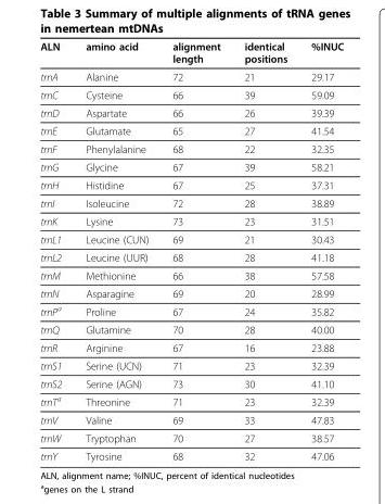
<table><thead><tr><td>ALN</td><td>amino acid</td><td>alignment length</td><td>identical positions</td><td>%INUC</td></tr></thead><tbody><tr><td>trnA</td><td>Alanine</td><td>72</td><td>21</td><td>29.17</td></tr><tr><td>trnC</td><td>Cysteine</td><td>66</td><td>39</td><td>59.09</td></tr><tr><td>trnD</td><td>Aspartate</td><td>66</td><td>26</td><td>39.39</td></tr><tr><td>trnE</td><td>Glutamate</td><td>65</td><td>27</td><td>41.54</td></tr><tr><td>trnF</td><td>Phenylalanine</td><td>68</td><td>22</td><td>32.35</td></tr><tr><td>trnG</td><td>Glycine</td><td>67</td><td>39</td><td>58.21</td></tr><tr><td>trnH</td><td>Histidine</td><td>67</td><td>25</td><td>37.31</td></tr><tr><td>trnI</td><td>Isoleucine</td><td>72</td><td>28</td><td>38.89</td></tr><tr><td>trnK</td><td>Lysine</td><td>73</td><td>23</td><td>31.51</td></tr><tr><td>trnL1</td><td>Leucine (CUN)</td><td>69</td><td>21</td><td>30.43</td></tr><tr><td>trnL2</td><td>Leucine (UUR)</td><td>68</td><td>28</td><td>41.18</td></tr><tr><td>trnM</td><td>Methionine</td><td>66</td><td>38</td><td>57.58</td></tr><tr><td>trnN</td><td>Asparagine</td><td>69</td><td>20</td><td>28.99</td></tr><tr><td>trnP<sup>a</sup></td><td>Proline</td><td>67</td><td>24</td><td>35.82</td></tr><tr><td>trnQ</td><td>Glutamine</td><td>70</td><td>28</td><td>40.00</td></tr><tr><td>trnR</td><td>Arginine</td><td>67</td><td>16</td><td>23.88</td></tr><tr><td>trnS1</td><td>Serine (UCN)</td><td>71</td><td>23</td><td>32.39</td></tr><tr><td>trnS2</td><td>Serine (AGN)</td><td>73</td><td>30</td><td>41.10</td></tr><tr><td>trnT<sup>a</sup></td><td>Threonine</td><td>71</td><td>23</td><td>32.39</td></tr><tr><td>trnV</td><td>Valine</td><td>69</td><td>33</td><td>47.83</td></tr><tr><td>trnW</td><td>Tryptophan</td><td>70</td><td>27</td><td>38.57</td></tr><tr><td>trnY</td><td>Tyrosine</td><td>68</td><td>32</td><td>47.06</td></tr></tbody></table>